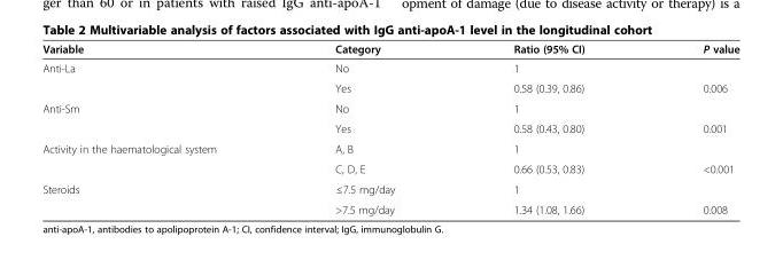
<table><thead><tr><td>Variable</td><td>Category</td><td>Ratio (95% CI)</td><td>P value</td></tr></thead><tbody><tr><td rowspan="2">Anti-La</td><td>No</td><td>1</td><td></td></tr><tr><td>Yes</td><td>0.58 (0.39, 0.86)</td><td>0.006</td></tr><tr><td rowspan="2">Anti-Sm</td><td>No</td><td>1</td><td></td></tr><tr><td>Yes</td><td>0.58 (0.43, 0.80)</td><td>0.001</td></tr><tr><td rowspan="2">Activity in the haematological system</td><td>A, B</td><td>1</td><td></td></tr><tr><td>C, D, E</td><td>0.66 (0.53, 0.83)</td><td>&lt;0.001</td></tr><tr><td rowspan="2">Steroids</td><td>≤7.5 mg/day</td><td>1</td><td></td></tr><tr><td>&gt;7.5 mg/day</td><td>1.34 (1.08, 1.66)</td><td>0.008</td></tr></tbody></table>